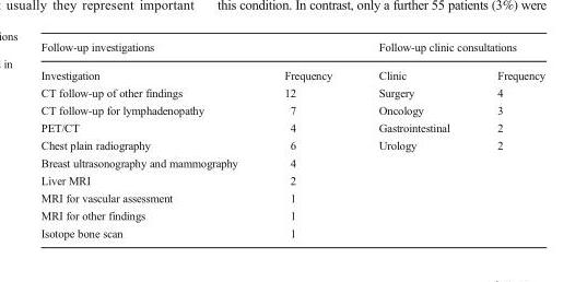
<table><thead><tr><td colspan="2">Follow-up investigations</td><td colspan="2">Follow-up clinic consultations</td></tr><tr><td>Investigation</td><td>Frequency</td><td>Clinic</td><td>Frequency</td></tr></thead><tbody><tr><td>CT follow-up of other findings</td><td>12</td><td>Surgery</td><td>4</td></tr><tr><td>CT follow-up for lymphadenopathy</td><td>7</td><td>Oncology</td><td>3</td></tr><tr><td>PET/CT</td><td>4</td><td>Gastrointestinal</td><td>2</td></tr><tr><td>Chest plain radiography</td><td>6</td><td>Urology</td><td>2</td></tr><tr><td>Breast ultrasonography and mammography</td><td>4</td><td></td><td></td></tr><tr><td>Liver MRI</td><td>2</td><td></td><td></td></tr><tr><td>MRI for vascular assessment</td><td>1</td><td></td><td></td></tr><tr><td>MRI for other findings</td><td>1</td><td></td><td></td></tr><tr><td>Isotope bone scan</td><td>1</td><td></td><td></td></tr></tbody></table>